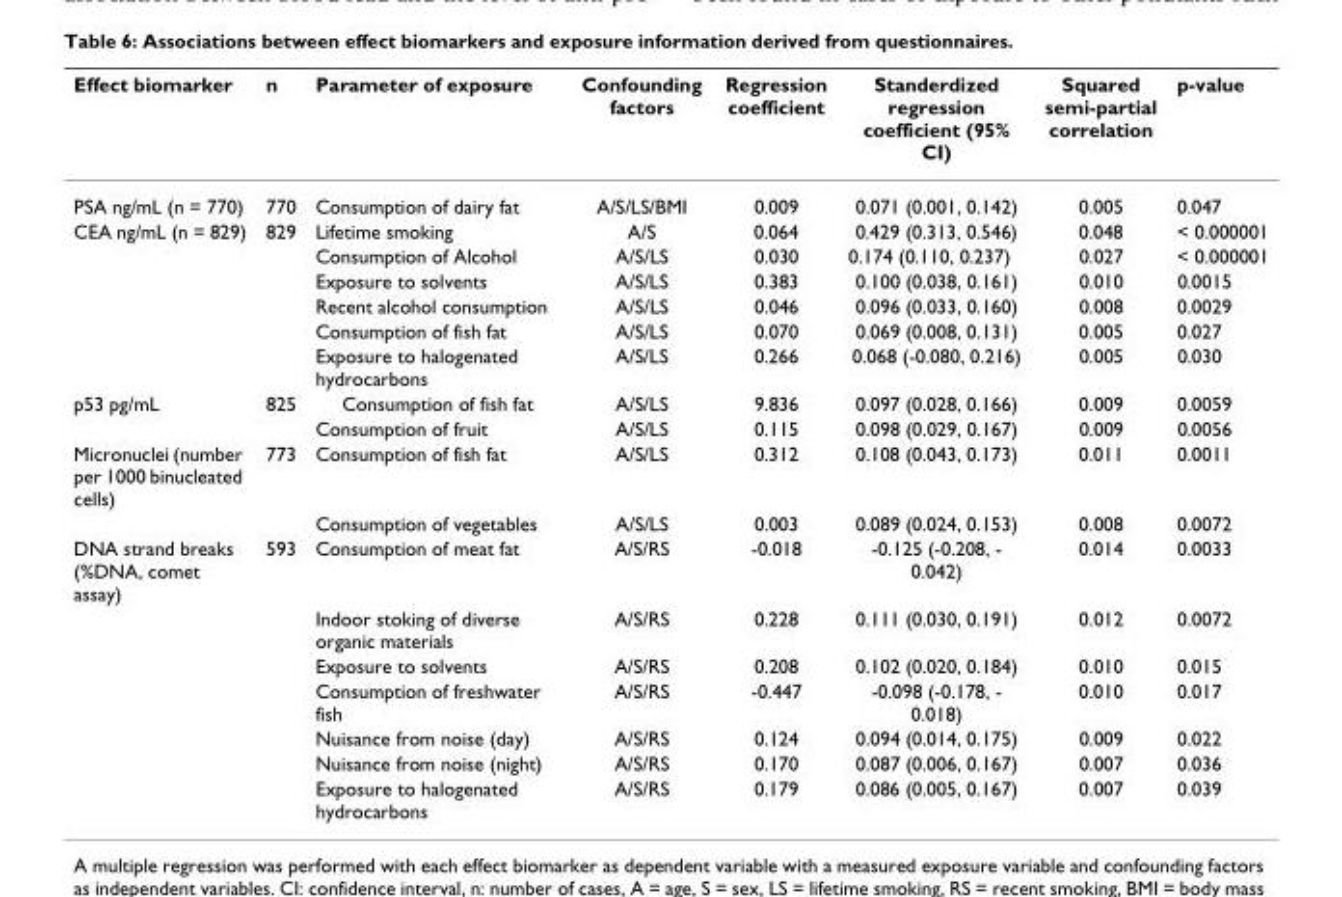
<table><thead><tr><td>Effect biomarker</td><td>n</td><td>Parameter of exposure</td><td>Confounding factors</td><td>Regression coefficient</td><td>Standerdized regression coefficient (95% CI)</td><td>Squared semi-partial correlation</td><td>p-value</td></tr></thead><tbody><tr><td>PSA ng/mL (n = 770)</td><td>770</td><td>Consumption of dairy fat</td><td>A/S/LS/BMI</td><td>0.009</td><td>0.071 (0.001, 0.142)</td><td>0.005</td><td>0.047</td></tr><tr><td rowspan="6">CEA ng/mL (n = 829)</td><td>829</td><td>Lifetime smoking</td><td>A/S</td><td>0.064</td><td>0.429 (0.313, 0.546)</td><td>0.048</td><td>&lt; 0.000001</td></tr><tr><td></td><td>Consumption of Alcohol</td><td>A/S/LS</td><td>0.030</td><td>0.174 (0.110, 0.237)</td><td>0.027</td><td>&lt; 0.000001</td></tr><tr><td></td><td>Exposure to solvents</td><td>A/S/LS</td><td>0.383</td><td>0.100 (0.038, 0.161)</td><td>0.010</td><td>0.0015</td></tr><tr><td></td><td>Recent alcohol consumption</td><td>A/S/LS</td><td>0.046</td><td>0.096 (0.033, 0.160)</td><td>0.008</td><td>0.0029</td></tr><tr><td></td><td>Consumption of fish fat</td><td>A/S/LS</td><td>0.070</td><td>0.069 (0.008, 0.131)</td><td>0.005</td><td>0.027</td></tr><tr><td></td><td>Exposure to halogenated hydrocarbons</td><td>A/S/LS</td><td>0.266</td><td>0.068 (-0.080, 0.216)</td><td>0.005</td><td>0.030</td></tr><tr><td rowspan="2">p53 pg/mL</td><td>825</td><td>Consumption of fish fat</td><td>A/S/LS</td><td>9.836</td><td>0.097 (0.028, 0.166)</td><td>0.009</td><td>0.0059</td></tr><tr><td></td><td>Consumption of fruit</td><td>A/S/LS</td><td>0.115</td><td>0.098 (0.029, 0.167)</td><td>0.009</td><td>0.0056</td></tr><tr><td rowspan="2">Micronuclei (number per 1000 binucleated cells)</td><td>773</td><td>Consumption of fish fat</td><td>A/S/LS</td><td>0.312</td><td>0.108 (0.043, 0.173)</td><td>0.011</td><td>0.0011</td></tr><tr><td></td><td>Consumption of vegetables</td><td>A/S/LS</td><td>0.003</td><td>0.089 (0.024, 0.153)</td><td>0.008</td><td>0.0072</td></tr><tr><td rowspan="7">DNA strand breaks (%DNA, comet assay)</td><td>593</td><td>Consumption of meat fat</td><td>A/S/RS</td><td>-0.018</td><td>-0.125 (-0.208, - 0.042)</td><td>0.014</td><td>0.0033</td></tr><tr><td></td><td>Indoor stoking of diverse organic materials</td><td>A/S/RS</td><td>0.228</td><td>0.111 (0.030, 0.191)</td><td>0.012</td><td>0.0072</td></tr><tr><td></td><td>Exposure to solvents</td><td>A/S/RS</td><td>0.208</td><td>0.102 (0.020, 0.184)</td><td>0.010</td><td>0.015</td></tr><tr><td></td><td>Consumption of freshwater fish</td><td>A/S/RS</td><td>-0.447</td><td>-0.098 (-0.178, - 0.018)</td><td>0.010</td><td>0.017</td></tr><tr><td></td><td>Nuisance from noise (day)</td><td>A/S/RS</td><td>0.124</td><td>0.094 (0.014, 0.175)</td><td>0.009</td><td>0.022</td></tr><tr><td></td><td>Nuisance from noise (night)</td><td>A/S/RS</td><td>0.170</td><td>0.087 (0.006, 0.167)</td><td>0.007</td><td>0.036</td></tr><tr><td></td><td>Exposure to halogenated hydrocarbons</td><td>A/S/RS</td><td>0.179</td><td>0.086 (0.005, 0.167)</td><td>0.007</td><td>0.039</td></tr></tbody></table>